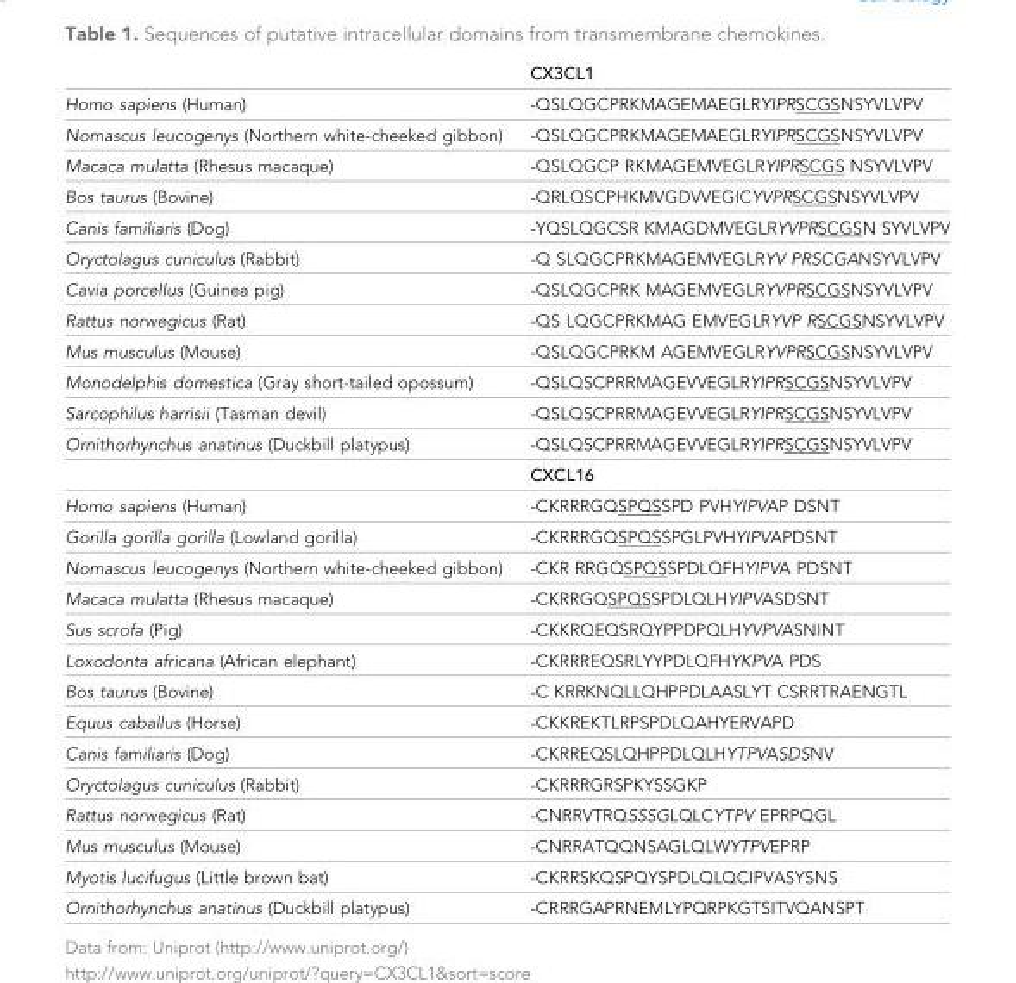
<table><thead><tr><td></td><td>CX3CL1</td></tr></thead><tbody><tr><td>Homo sapiens (Human)</td><td>-QSLQGCPRKMAGEMAEGLRYIPRSCGSNSYVLVPV</td></tr><tr><td>Nomascus leucogenys (Northern white-cheeked gibbon)</td><td>-QSLQGCPRKMAGEMAEGLRYIPRSCGSNSYVLVPV</td></tr><tr><td>Macaca mulatta (Rhesus macaque)</td><td>-QSLQGCP RKMAGEMVEGLRYIPRSCGS NSYVLVPV</td></tr><tr><td>Bos taurus (Bovine)</td><td>-QRLQSCPHKMVGDVVEGICYVPRSCGSNSYVLVPV</td></tr><tr><td>Canis familiaris (Dog)</td><td>-YQSLQGCSR KMAGDMVEGLRYVPRSCGSN SYVLVPV</td></tr><tr><td>Oryctolagus cuniculus (Rabbit)</td><td>-Q SLQGCPRKMAGEMVEGLRYV PRSCGANSYVLVPV</td></tr><tr><td>Cavia porcellus (Guinea pig)</td><td>-QSLQGCPRK MAGEMVEGLRYVPRSCGSNSYVLVPV</td></tr><tr><td>Rattus norwegicus (Rat)</td><td>-QS LQGCPRKMAG EMVEGLRYVP RSCGSNSYVLVPV</td></tr><tr><td>Mus musculus (Mouse)</td><td>-QSLQGCPRKM AGEMVEGLRYVPRSCGSNSYVLVPV</td></tr><tr><td>Monodelphis domestica (Gray short-tailed opossum)</td><td>-QSLQSCPRRMAGEVVEGLRYIPRSCGSNSYVLVPV</td></tr><tr><td>Sarcophilus harrisii (Tasman devil)</td><td>-QSLQSCPRRMAGEVVEGLRYIPRSCGSNSYVLVPV</td></tr><tr><td rowspan="2">Ornithorhynchus anatinus (Duckbill platypus)</td><td>-QSLQSCPRRMAGEVVEGLRYIPRSCGSNSYVLVPV</td></tr><tr><td>CXCL16</td></tr><tr><td>Homo sapiens (Human)</td><td>-CKRRRGQSPQSSPD PVHYIPVAP DSNT</td></tr><tr><td>Gorilla gorilla gorilla (Lowland gorilla)</td><td>-CKRRRGQSPQSSPGLPVHYIPVAPDSNT</td></tr><tr><td>Nomascus leucogenys (Northern white-cheeked gibbon)</td><td>-CKR RRGQSPQSSPDLQFHYIPVA PDSNT</td></tr><tr><td>Macaca mulatta (Rhesus macaque)</td><td>-CKRRGQSPQSSPDLQLHYIPVASDSNT</td></tr><tr><td>Sus scrofa (Pig)</td><td>-CKKRQEQSRQYPPDPQLHYVPVASNINT</td></tr><tr><td>Loxodonta africana (African elephant)</td><td>-CKRRREQSRLYYPDLQFHYKPVA PDS</td></tr><tr><td>Bos taurus (Bovine)</td><td>-C KRRKNQLLQHPPDLAASLYT CSRRTRAENGTL</td></tr><tr><td>Equus caballus (Horse)</td><td>-CKKREKTLRPSPDLQAHYERVAPD</td></tr><tr><td>Canis familiaris (Dog)</td><td>-CKRREQSLQHPPDLQLHYTPVASDSNV</td></tr><tr><td>Oryctolagus cuniculus (Rabbit)</td><td>-CKRRRGRSPKYSSGKP</td></tr><tr><td>Rattus norwegicus (Rat)</td><td>-CNRRVTRQSSSGLQLCYTPV EPRPQGL</td></tr><tr><td>Mus musculus (Mouse)</td><td>-CNRRATQQNSAGLQLWYTPVEPRP</td></tr><tr><td>Myotis lucifugus (Little brown bat)</td><td>-CKRRSKQSPQYSPDLQLQCIPVASYSNS</td></tr><tr><td>Ornithorhynchus anatinus (Duckbill platypus)</td><td>-CRRRGAPRNEMLYPQRPKGTSITVQANSPT</td></tr></tbody></table>